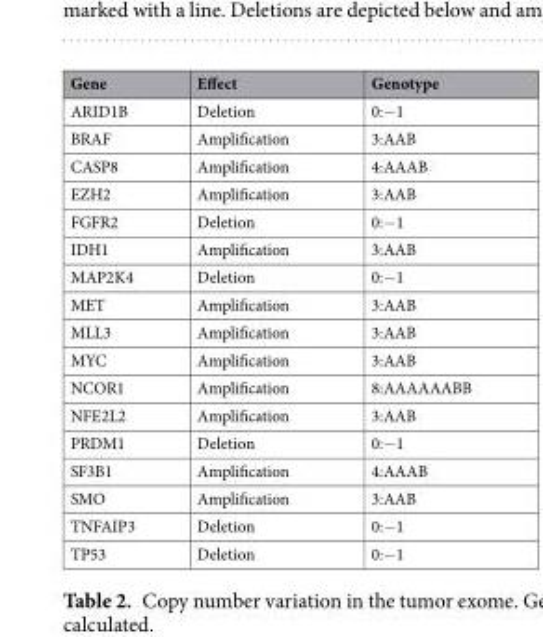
<table><thead><tr><td>Gene</td><td>Effect</td><td>Genotype</td></tr></thead><tbody><tr><td>ARID1B</td><td>Deletion</td><td>0:−1</td></tr><tr><td>BRAF</td><td>Amplification</td><td>3:AAB</td></tr><tr><td>CASP8</td><td>Amplification</td><td>4:AAAB</td></tr><tr><td>EZH2</td><td>Amplification</td><td>3:AAB</td></tr><tr><td>FGFR2</td><td>Deletion</td><td>0:−1</td></tr><tr><td>IDH1</td><td>Amplification</td><td>3:AAB</td></tr><tr><td>MAP2K4</td><td>Deletion</td><td>0:−1</td></tr><tr><td>MET</td><td>Amplification</td><td>3:AAB</td></tr><tr><td>MLL3</td><td>Amplification</td><td>3:AAB</td></tr><tr><td>MYC</td><td>Amplification</td><td>3:AAB</td></tr><tr><td>NCOR1</td><td>Amplification</td><td>8:AAAAAABB</td></tr><tr><td>NFE2L2</td><td>Amplification</td><td>3:AAB</td></tr><tr><td>PRDM1</td><td>Deletion</td><td>0:−1</td></tr><tr><td>SF3B1</td><td>Amplification</td><td>4:AAAB</td></tr><tr><td>SMO</td><td>Amplification</td><td>3:AAB</td></tr><tr><td>TNFAIP3</td><td>Deletion</td><td>0:−1</td></tr><tr><td>TP53</td><td>Deletion</td><td>0:−1</td></tr></tbody></table>